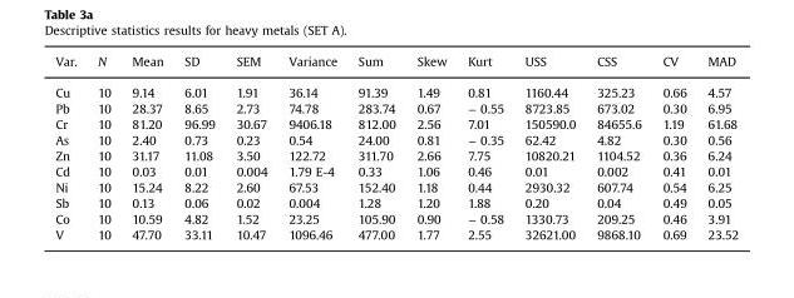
<table><thead><tr><td>Var.</td><td>N</td><td>Mean</td><td>SD</td><td>SEM</td><td>Variance</td><td>Sum</td><td>Skew</td><td>Kurt</td><td>USS</td><td>CSS</td><td>CV</td><td>MAD</td></tr></thead><tbody><tr><td>Cu</td><td>10</td><td>9.14</td><td>6.01</td><td>1.91</td><td>36.14</td><td>91.39</td><td>1.49</td><td>0.81</td><td>1160.44</td><td>325.23</td><td>0.66</td><td>4.57</td></tr><tr><td>Pb</td><td>10</td><td>28.37</td><td>8.65</td><td>2.73</td><td>74.78</td><td>283.74</td><td>0.67</td><td>− 0.55</td><td>8723.85</td><td>673.02</td><td>0.30</td><td>6.95</td></tr><tr><td>Cr</td><td>10</td><td>81.20</td><td>96.99</td><td>30.67</td><td>9406.18</td><td>812.00</td><td>2.56</td><td>7.01</td><td>150590.0</td><td>84655.6</td><td>1.19</td><td>61.68</td></tr><tr><td>As</td><td>10</td><td>2.40</td><td>0.73</td><td>0.23</td><td>0.54</td><td>24.00</td><td>0.81</td><td>− 0.35</td><td>62.42</td><td>4.82</td><td>0.30</td><td>0.56</td></tr><tr><td>Zn</td><td>10</td><td>31.17</td><td>11.08</td><td>3.50</td><td>122.72</td><td>311.70</td><td>2.66</td><td>7.75</td><td>10820.21</td><td>1104.52</td><td>0.36</td><td>6.24</td></tr><tr><td>Cd</td><td>10</td><td>0.03</td><td>0.01</td><td>0.004</td><td>1.79 E-4</td><td>0.33</td><td>1.06</td><td>0.46</td><td>0.01</td><td>0.002</td><td>0.41</td><td>0.01</td></tr><tr><td>Ni</td><td>10</td><td>15.24</td><td>8.22</td><td>2.60</td><td>67.53</td><td>152.40</td><td>1.18</td><td>0.44</td><td>2930.32</td><td>607.74</td><td>0.54</td><td>6.25</td></tr><tr><td>Sb</td><td>10</td><td>0.13</td><td>0.06</td><td>0.02</td><td>0.004</td><td>1.28</td><td>1.20</td><td>1.88</td><td>0.20</td><td>0.04</td><td>0.49</td><td>0.05</td></tr><tr><td>Co</td><td>10</td><td>10.59</td><td>4.82</td><td>1.52</td><td>23.25</td><td>105.90</td><td>0.90</td><td>− 0.58</td><td>1330.73</td><td>209.25</td><td>0.46</td><td>3.91</td></tr><tr><td>V</td><td>10</td><td>47.70</td><td>33.11</td><td>10.47</td><td>1096.46</td><td>477.00</td><td>1.77</td><td>2.55</td><td>32621.00</td><td>9868.10</td><td>0.69</td><td>23.52</td></tr></tbody></table>